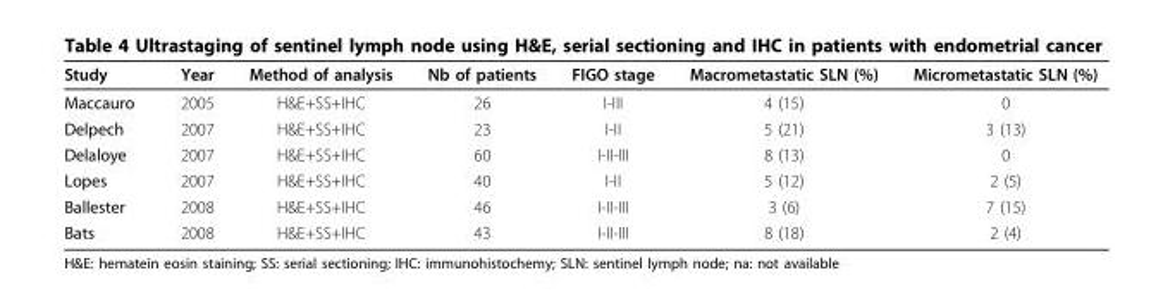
<table><thead><tr><td>Study</td><td>Year</td><td>Method of analysis</td><td>Nb of patients</td><td>FIGO stage</td><td>Macrometastatic SLN (%)</td><td>Micrometastatic SLN (%)</td></tr></thead><tbody><tr><td>Maccauro</td><td>2005</td><td>H&amp;E+SS+IHC</td><td>26</td><td>I-III</td><td>4 (15)</td><td>0</td></tr><tr><td>Delpech</td><td>2007</td><td>H&amp;E+SS+IHC</td><td>23</td><td>I-II</td><td>5 (21)</td><td>3 (13)</td></tr><tr><td>Delaloye</td><td>2007</td><td>H&amp;E+SS+IHC</td><td>60</td><td>I-II-III</td><td>8 (13)</td><td>0</td></tr><tr><td>Lopes</td><td>2007</td><td>H&amp;E+SS+IHC</td><td>40</td><td>I-II</td><td>5 (12)</td><td>2 (5)</td></tr><tr><td>Ballester</td><td>2008</td><td>H&amp;E+SS+IHC</td><td>46</td><td>I-II-III</td><td>3 (6)</td><td>7 (15)</td></tr><tr><td>Bats</td><td>2008</td><td>H&amp;E+SS+IHC</td><td>43</td><td>I-II-III</td><td>8 (18)</td><td>2 (4)</td></tr></tbody></table>